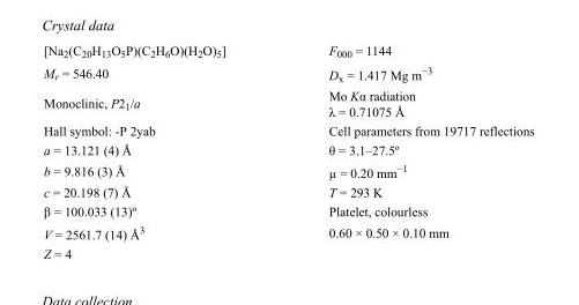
<table><tbody><tr><td>[Na<sub>2</sub>(C<sub>20</sub>H<sub>13</sub>O<sub>5</sub>P)(C<sub>2</sub>H<sub>6</sub>O)(H<sub>2</sub>O)<sub>5</sub>]</td><td>F000 = 1144</td></tr><tr><td>M<sub>r</sub> = 546.40</td><td>D<sub>x</sub> = 1.417 Mg m<sup>−3</sup></td></tr><tr><td>Monoclinic, P2<sub>1</sub>/a</td><td>Mo Kα radiation λ = 0.71075 Å</td></tr><tr><td>Hall symbol: -P 2yab</td><td>Cell parameters from 19717 reflections</td></tr><tr><td>a = 13.121 (4) Å</td><td>θ = 3.1–27.5º</td></tr><tr><td>b = 9.816 (3) Å</td><td>µ = 0.20 mm<sup>−1</sup></td></tr><tr><td>c = 20.198 (7) Å</td><td>T = 293 K</td></tr><tr><td>β = 100.033 (13)º</td><td>Platelet, colourless</td></tr><tr><td>V = 2561.7 (14) Å<sup>3</sup></td><td>0.60 × 0.50 × 0.10 mm</td></tr><tr><td>Z = 4</td><td></td></tr></tbody></table>